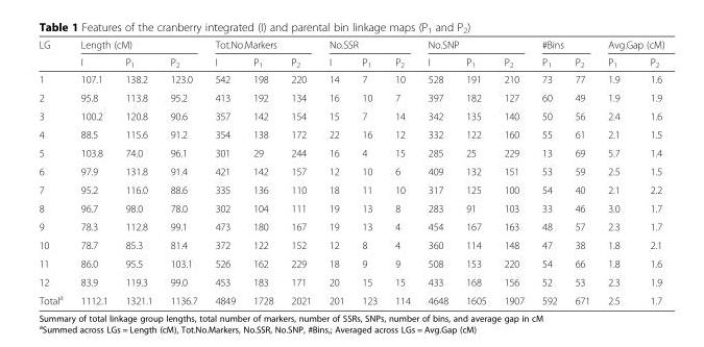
<table><thead><tr><td rowspan="2">LG</td><td colspan="3">Length (cM)</td><td colspan="3">Tot.No.Markers</td><td colspan="3">No.SSR</td><td colspan="3">No.SNP</td><td colspan="2">#Bins</td><td colspan="2">Avg.Gap (cM)</td></tr><tr><td>I</td><td>P<sub>1</sub></td><td>P<sub>2</sub></td><td>I</td><td>P<sub>1</sub></td><td>P<sub>2</sub></td><td>I</td><td>P<sub>1</sub></td><td>P<sub>2</sub></td><td>I</td><td>P<sub>1</sub></td><td>P<sub>2</sub></td><td>P<sub>1</sub></td><td>P<sub>2</sub></td><td>P<sub>1</sub></td><td>P<sub>2</sub></td></tr></thead><tbody><tr><td>1</td><td>107.1</td><td>138.2</td><td>123.0</td><td>542</td><td>198</td><td>220</td><td>14</td><td>7</td><td>10</td><td>528</td><td>191</td><td>210</td><td>73</td><td>77</td><td>1.9</td><td>1.6</td></tr><tr><td>2</td><td>95.8</td><td>113.8</td><td>95.2</td><td>413</td><td>192</td><td>134</td><td>16</td><td>10</td><td>7</td><td>397</td><td>182</td><td>127</td><td>60</td><td>49</td><td>1.9</td><td>1.9</td></tr><tr><td>3</td><td>100.2</td><td>120.8</td><td>90.6</td><td>357</td><td>142</td><td>154</td><td>15</td><td>7</td><td>14</td><td>342</td><td>135</td><td>140</td><td>50</td><td>56</td><td>2.4</td><td>1.6</td></tr><tr><td>4</td><td>88.5</td><td>115.6</td><td>91.2</td><td>354</td><td>138</td><td>172</td><td>22</td><td>16</td><td>12</td><td>332</td><td>122</td><td>160</td><td>55</td><td>61</td><td>2.1</td><td>1.5</td></tr><tr><td>5</td><td>103.8</td><td>74.0</td><td>96.1</td><td>301</td><td>29</td><td>244</td><td>16</td><td>4</td><td>15</td><td>285</td><td>25</td><td>229</td><td>13</td><td>69</td><td>5.7</td><td>1.4</td></tr><tr><td>6</td><td>97.9</td><td>131.8</td><td>91.4</td><td>421</td><td>142</td><td>157</td><td>12</td><td>10</td><td>6</td><td>409</td><td>132</td><td>151</td><td>53</td><td>59</td><td>2.5</td><td>1.5</td></tr><tr><td>7</td><td>95.2</td><td>116.0</td><td>88.6</td><td>335</td><td>136</td><td>110</td><td>18</td><td>11</td><td>10</td><td>317</td><td>125</td><td>100</td><td>54</td><td>40</td><td>2.1</td><td>2.2</td></tr><tr><td>8</td><td>96.7</td><td>98.0</td><td>78.0</td><td>302</td><td>104</td><td>111</td><td>19</td><td>13</td><td>8</td><td>283</td><td>91</td><td>103</td><td>33</td><td>46</td><td>3.0</td><td>1.7</td></tr><tr><td>9</td><td>78.3</td><td>112.8</td><td>99.1</td><td>473</td><td>180</td><td>167</td><td>19</td><td>13</td><td>4</td><td>454</td><td>167</td><td>163</td><td>48</td><td>57</td><td>2.3</td><td>1.7</td></tr><tr><td>10</td><td>78.7</td><td>85.3</td><td>81.4</td><td>372</td><td>122</td><td>152</td><td>12</td><td>8</td><td>4</td><td>360</td><td>114</td><td>148</td><td>47</td><td>38</td><td>1.8</td><td>2.1</td></tr><tr><td>11</td><td>86.0</td><td>95.5</td><td>103.1</td><td>526</td><td>162</td><td>229</td><td>18</td><td>9</td><td>9</td><td>508</td><td>153</td><td>220</td><td>54</td><td>66</td><td>1.8</td><td>1.6</td></tr><tr><td>12</td><td>83.9</td><td>119.3</td><td>99.0</td><td>453</td><td>183</td><td>171</td><td>20</td><td>15</td><td>15</td><td>433</td><td>168</td><td>156</td><td>52</td><td>53</td><td>2.3</td><td>1.9</td></tr><tr><td>Total<sup>a</sup></td><td>1112.1</td><td>1321.1</td><td>1136.7</td><td>4849</td><td>1728</td><td>2021</td><td>201</td><td>123</td><td>114</td><td>4648</td><td>1605</td><td>1907</td><td>592</td><td>671</td><td>2.5</td><td>1.7</td></tr></tbody></table>